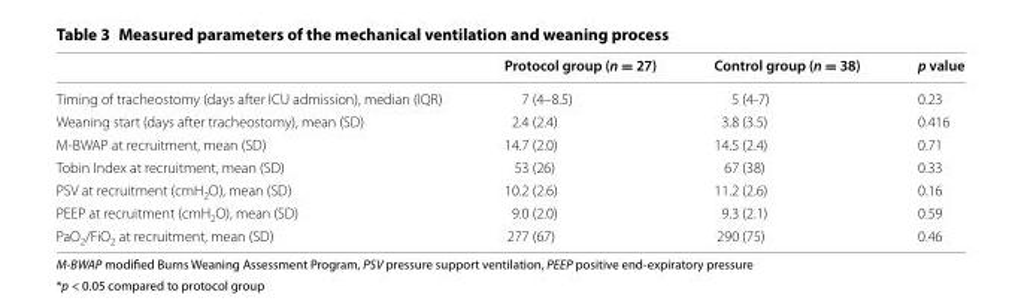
<table><thead><tr><td></td><td>Protocol group (n = 27)</td><td>Control group (n = 38)</td><td>p value</td></tr></thead><tbody><tr><td>Timing of tracheostomy (days after ICU admission), median (IQR)</td><td>7 (4–8.5)</td><td>5 (4-7)</td><td>0.23</td></tr><tr><td>Weaning start (days after tracheostomy), mean (SD)</td><td>2.4 (2.4)</td><td>3.8 (3.5)</td><td>0.416</td></tr><tr><td>M-BWAP at recruitment, mean (SD)</td><td>14.7 (2.0)</td><td>14.5 (2.4)</td><td>0.71</td></tr><tr><td>Tobin Index at recruitment, mean (SD)</td><td>53 (26)</td><td>67 (38)</td><td>0.33</td></tr><tr><td>PSV at recruitment (cmH<sub>2</sub>O), mean (SD)</td><td>10.2 (2.6)</td><td>11.2 (2.6)</td><td>0.16</td></tr><tr><td>PEEP at recruitment (cmH<sub>2</sub>O), mean (SD)</td><td>9.0 (2.0)</td><td>9.3 (2.1)</td><td>0.59</td></tr><tr><td>PaO<sub>2</sub>/FiO<sub>2</sub> at recruitment, mean (SD)</td><td>277 (67)</td><td>290 (75)</td><td>0.46</td></tr></tbody></table>